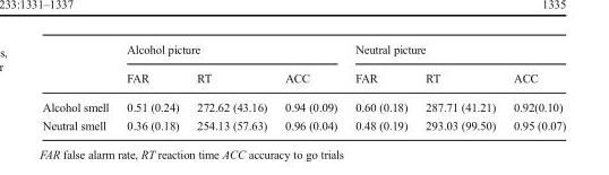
<table><thead><tr><td rowspan="2"></td><td colspan="3">Alcohol picture</td><td colspan="3">Neutral picture</td></tr><tr><td>FAR</td><td>RT</td><td>ACC</td><td>FAR</td><td>RT</td><td>ACC</td></tr></thead><tbody><tr><td>Alcohol smell</td><td>0.51 (0.24)</td><td>272.62 (43.16)</td><td>0.94 (0.09)</td><td>0.60 (0.18)</td><td>287.71 (41.21)</td><td>0.92(0.10)</td></tr><tr><td>Neutral smell</td><td>0.36 (0.18)</td><td>254.13 (57.63)</td><td>0.96 (0.04)</td><td>0.48 (0.19)</td><td>293.03 (99.50)</td><td>0.95 (0.07)</td></tr></tbody></table>